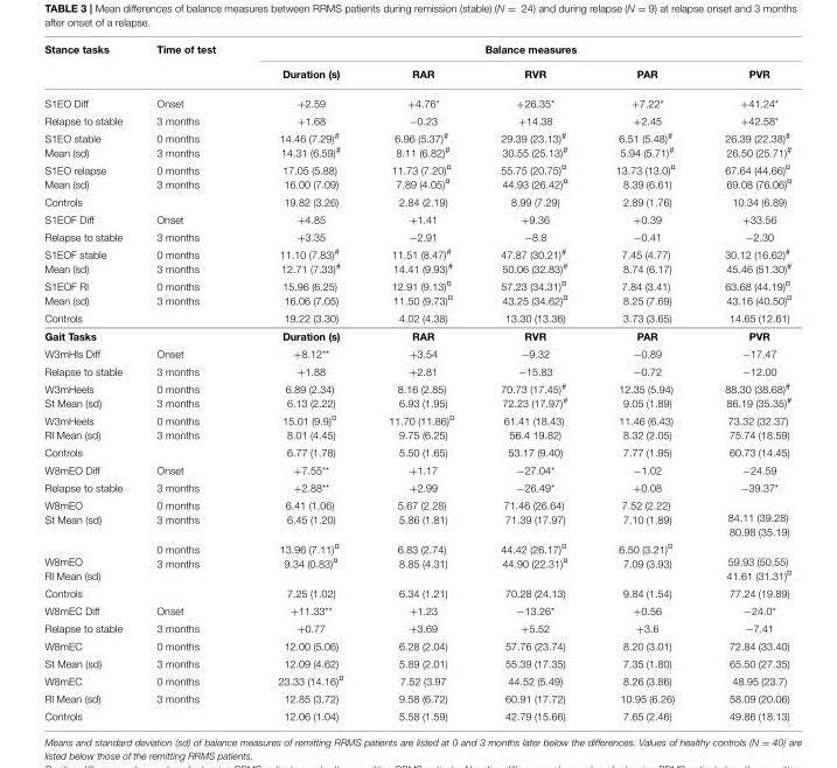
<table><thead><tr><td rowspan="2">Stance tasks</td><td rowspan="2">Time of test</td><td colspan="5">Balance measures</td></tr><tr><td>Duration (s)</td><td>RAR</td><td>RVR</td><td>PAR</td><td>PVR</td></tr></thead><tbody><tr><td>S1EO Diff</td><td>Onset</td><td>+2.59</td><td>+4.76*</td><td>+26.35*</td><td>+7.22*</td><td>+41.24*</td></tr><tr><td>Relapse to stable</td><td>3 months</td><td>+1.68</td><td>−0.23</td><td>+14.38</td><td>+2.45</td><td>+42.58*</td></tr><tr><td>S1EO stable Mean (sd)</td><td>0 months 3 months</td><td>14.46 (7.29)<sup>#</sup> 14.31 (6.59)<sup>#</sup></td><td>6.96 (5.37)<sup>#</sup> 8.11 (6.82)<sup>#</sup></td><td>29.39 (23.13)<sup>#</sup> 30.55 (25.13)<sup>#</sup></td><td>6.51 (5.48)<sup>#</sup> 5.94 (5.71)<sup>#</sup></td><td>26.39 (22.38)<sup>#</sup> 26.50 (25.71)<sup>#</sup></td></tr><tr><td>S1EO relapse Mean (sd)</td><td>0 months 3 months</td><td>17.05 (5.88) 16.00 (7.09)</td><td>11.73 (7.20)<sup>¤</sup> 7.89 (4.05)<sup>¤</sup></td><td>55.75 (20.75)<sup>¤</sup> 44.93 (26.42)<sup>¤</sup></td><td>13.73 (13.0)<sup>¤</sup> 8.39 (6.61)</td><td>67.64 (44.66)<sup>¤</sup> 69.08 (76.06)<sup>¤</sup></td></tr><tr><td>Controls</td><td></td><td>19.82 (3.26)</td><td>2.84 (2.19)</td><td>8.99 (7.29)</td><td>2.89 (1.76)</td><td>10.34 (6.89)</td></tr><tr><td>S1EOF Diff</td><td>Onset</td><td>+4.85</td><td>+1.41</td><td>+9.36</td><td>+0.39</td><td>+33.56</td></tr><tr><td>Relapse to stable</td><td>3 months</td><td>+3.35</td><td>−2.91</td><td>−8.8</td><td>−0.41</td><td>−2.30</td></tr><tr><td>S1EOF stable Mean (sd)</td><td>0 months 3 months</td><td>11.10 (7.83)<sup>#</sup> 12.71 (7.33)<sup>#</sup></td><td>11.51 (8.47)<sup>#</sup> 14.41 (9.93)<sup>#</sup></td><td>47.87 (30.21)<sup>#</sup> 50.06 (32.83)<sup>#</sup></td><td>7.45 (4.77) 8.74 (6.17)</td><td>30.12 (16.62)<sup>#</sup> 45.46 (51.30)<sup>#</sup></td></tr><tr><td>S1EOF Rl Mean (sd)</td><td>0 months 3 months</td><td>15.96 (6.25) 16.06 (7.05)</td><td>12.91 (9.13)<sup>¤</sup> 11.50 (9.73)<sup>¤</sup></td><td>57.23 (34.31)<sup>¤</sup> 43.25 (34.62)<sup>¤</sup></td><td>7.84 (3.41) 8.25 (7.69)</td><td>63.68 (44.19)<sup>¤</sup> 43.16 (40.50)<sup>¤</sup></td></tr><tr><td>Controls</td><td></td><td>19.22 (3.30)</td><td>4.02 (4.38)</td><td>13.30 (13.36)</td><td>3.73 (3.65)</td><td>14.65 (12.61)</td></tr><tr><td>Gait Tasks</td><td></td><td>Duration (s)</td><td>RAR</td><td>RVR</td><td>PAR</td><td>PVR</td></tr><tr><td>W3mHls Diff</td><td>Onset</td><td>+8.12**</td><td>+3.54</td><td>−9.32</td><td>−0.89</td><td>−17.47</td></tr><tr><td>Relapse to stable</td><td>3 months</td><td>+1.88</td><td>+2.81</td><td>−15.83</td><td>−0.72</td><td>−12.00</td></tr><tr><td>W3mHeels St Mean (sd)</td><td>0 months 3 months</td><td>6.89 (2.34) 6.13 (2.22)</td><td>8.16 (2.85) 6.93 (1.95)</td><td>70.73 (17.45)<sup>#</sup> 72.23 (17.97)<sup>#</sup></td><td>12.35 (5.94) 9.05 (1.89)</td><td>88.30 (38.68)<sup>#</sup> 86.19 (35.35)<sup>#</sup></td></tr><tr><td>W3mHeels Rl Mean (sd)</td><td>0 months 3 months</td><td>15.01 (9.9)<sup>¤</sup> 8.01 (4.45)</td><td>11.70 (11.86)<sup>¤</sup> 9.75 (6.25)</td><td>61.41 (18.43) 56.4 19.82)</td><td>11.46 (6.43) 8.32 (2.05)</td><td>73.32 (32.37) 75.74 (18.59)</td></tr><tr><td>Controls</td><td></td><td>6.77 (1.78)</td><td>5.50 (1.65)</td><td>53.17 (9.40)</td><td>7.77 (1.95)</td><td>60.73 (14.45)</td></tr><tr><td>W8mEO Diff</td><td>Onset</td><td>+7.55**</td><td>+1.17</td><td>−27.04*</td><td>−1.02</td><td>−24.59</td></tr><tr><td>Relapse to stable</td><td>3 months</td><td>+2.88**</td><td>+2.99</td><td>−26.49*</td><td>+0.08</td><td>−39.37*</td></tr><tr><td>W8mEO St Mean (sd)</td><td>0 months 3 months</td><td>6.41 (1.06) 6.45 (1.20)</td><td>5.67 (2.28) 5.86 (1.81)</td><td>71.46 (26.64) 71.39 (17.97)</td><td>7.52 (2.22) 7.10 (1.89)</td><td>84.11 (39.28) 80.98 (35.19)</td></tr><tr><td>W8mEO Rl Mean (sd)</td><td>0 months 3 months</td><td>13.96 (7.11)<sup>¤</sup> 9.34 (0.83)<sup>¤</sup></td><td>6.83 (2.74) 8.85 (4.31)</td><td>44.42 (26.17)<sup>¤</sup> 44.90 (22.31)<sup>¤</sup></td><td>6.50 (3.21)<sup>¤</sup> 7.09 (3.93)</td><td>59.93 (50.55) 41.61 (31.31)<sup>¤</sup></td></tr><tr><td>Controls</td><td></td><td>7.25 (1.02)</td><td>6.34 (1.21)</td><td>70.28 (24.13)</td><td>9.84 (1.54)</td><td>77.24 (19.89)</td></tr><tr><td>W8mEC Diff</td><td>Onset</td><td>+11.33**</td><td>+1.23</td><td>−13.26*</td><td>+0.56</td><td>−24.0*</td></tr><tr><td>Relapse to stable</td><td>3 months</td><td>+0.77</td><td>+3.69</td><td>+5.52</td><td>+3.6</td><td>−7.41</td></tr><tr><td>W8mEC</td><td>0 months</td><td>12.00 (5.06)</td><td>6.28 (2.04)</td><td>57.76 (23.74)</td><td>8.20 (3.01)</td><td>72.84 (33.40)</td></tr><tr><td>St Mean (sd)</td><td>3 months</td><td>12.09 (4.62)</td><td>5.89 (2.01)</td><td>55.39 (17.35)</td><td>7.35 (1.80)</td><td>65.50 (27.35)</td></tr><tr><td>W8mEC</td><td>0 months</td><td>23.33 (14.16)<sup>¤</sup></td><td>7.52 (3.97</td><td>44.52 (5.49)</td><td>8.26 (3.86)</td><td>48.95 (23.7)</td></tr><tr><td>Rl Mean (sd)</td><td>3 months</td><td>12.85 (3.72)</td><td>9.58 (6.72)</td><td>60.91 (17.72)</td><td>10.95 (6.26)</td><td>58.09 (20.06)</td></tr><tr><td>Controls</td><td></td><td>12.06 (1.04)</td><td>5.58 (1.59)</td><td>42.79 (15.66)</td><td>7.65 (2.46)</td><td>49.86 (18.13)</td></tr></tbody></table>